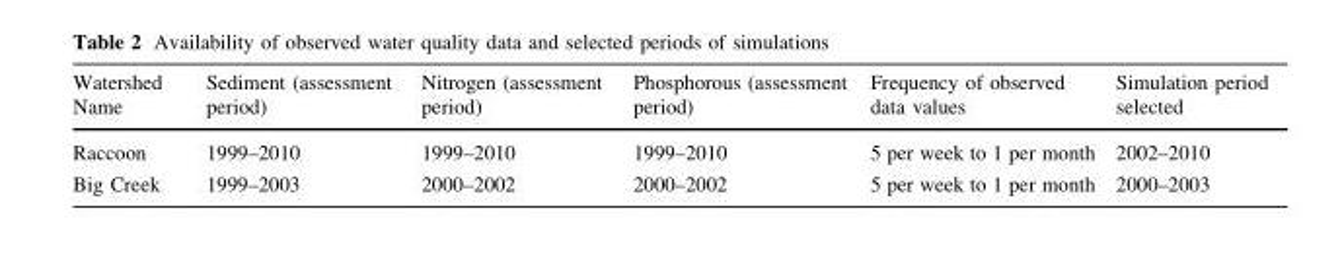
<table><thead><tr><td>Watershed Name</td><td>Sediment (assessment period)</td><td>Nitrogen (assessment period)</td><td>Phosphorous (assessment period)</td><td>Frequency of observed data values</td><td>Simulation period selected</td></tr></thead><tbody><tr><td>Raccoon</td><td>1999–2010</td><td>1999–2010</td><td>1999–2010</td><td>5 per week to 1 per month</td><td>2002–2010</td></tr><tr><td>Big Creek</td><td>1999–2003</td><td>2000–2002</td><td>2000–2002</td><td>5 per week to 1 per month</td><td>2000–2003</td></tr></tbody></table>